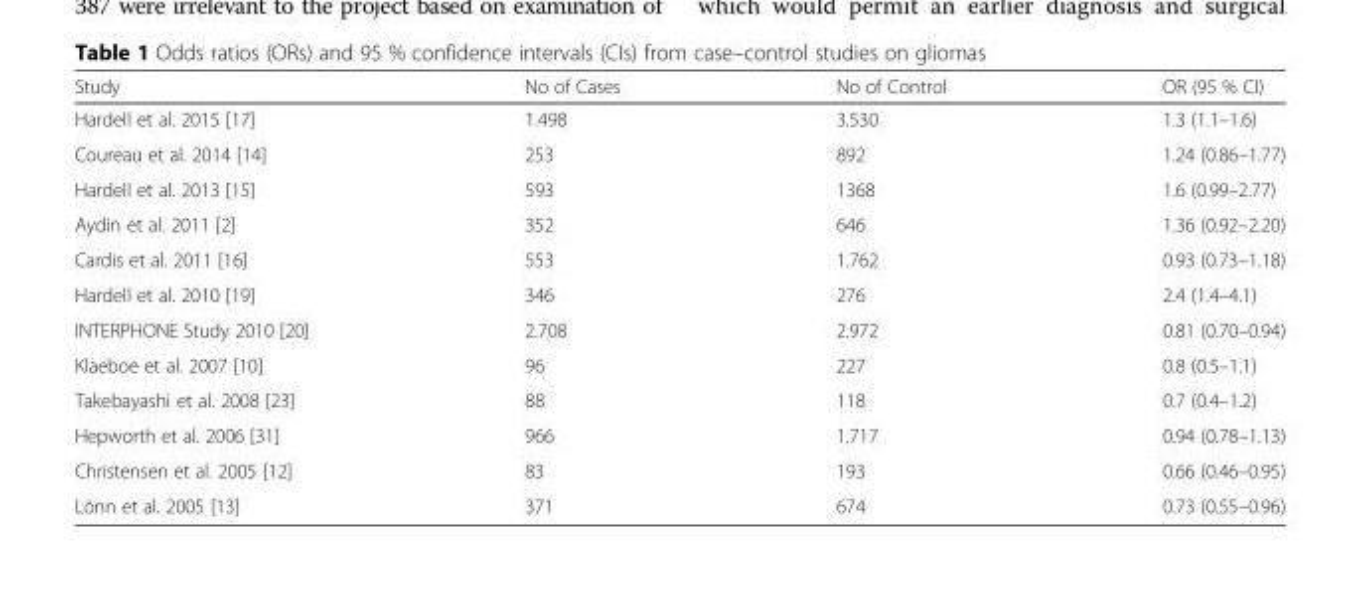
<table><thead><tr><td>Study</td><td>No of Cases</td><td>No of Control</td><td>OR (95 % CI)</td></tr></thead><tbody><tr><td>Hardell et al. 2015 [17]</td><td>1.498</td><td>3.530</td><td>1.3 (1.1–1.6)</td></tr><tr><td>Coureau et al. 2014 [14]</td><td>253</td><td>892</td><td>1.24 (0.86–1.77)</td></tr><tr><td>Hardell et al. 2013 [15]</td><td>593</td><td>1368</td><td>1.6 (0.99–2.77)</td></tr><tr><td>Aydin et al. 2011 [2]</td><td>352</td><td>646</td><td>1.36 (0.92–2.20)</td></tr><tr><td>Cardis et al. 2011 [16]</td><td>553</td><td>1.762</td><td>0.93 (0.73–1.18)</td></tr><tr><td>Hardell et al. 2010 [19]</td><td>346</td><td>276</td><td>2.4 (1.4–4.1)</td></tr><tr><td>INTERPHONE Study 2010 [20]</td><td>2.708</td><td>2.972</td><td>0.81 (0.70–0.94)</td></tr><tr><td>Klaeboe et al. 2007 [10]</td><td>96</td><td>227</td><td>0.8 (0.5–1.1)</td></tr><tr><td>Takebayashi et al. 2008 [23]</td><td>88</td><td>118</td><td>0.7 (0.4–1.2)</td></tr><tr><td>Hepworth et al. 2006 [31]</td><td>966</td><td>1.717</td><td>0.94 (0.78–1.13)</td></tr><tr><td>Christensen et al. 2005 [12]</td><td>83</td><td>193</td><td>0.66 (0.46–0.95)</td></tr><tr><td>Lönn et al. 2005 [13]</td><td>371</td><td>674</td><td>0.73 (0.55–0.96)</td></tr></tbody></table>